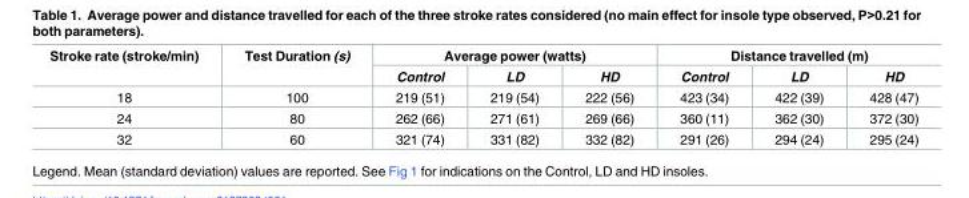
<table><thead><tr><td rowspan="2">Stroke rate (stroke/min)</td><td rowspan="2">Test Duration (s)</td><td colspan="3">Average power (watts)</td><td colspan="3">Distance travelled (m)</td></tr><tr><td>Control</td><td>LD</td><td>HD</td><td>Control</td><td>LD</td><td>HD</td></tr></thead><tbody><tr><td>18</td><td>100</td><td>219 (51)</td><td>219 (54)</td><td>222 (56)</td><td>423 (34)</td><td>422 (39)</td><td>428 (47)</td></tr><tr><td>24</td><td>80</td><td>262 (66)</td><td>271 (61)</td><td>269 (66)</td><td>360 (11)</td><td>362 (30)</td><td>372 (30)</td></tr><tr><td>32</td><td>60</td><td>321 (74)</td><td>331 (82)</td><td>332 (82)</td><td>291 (26)</td><td>294 (24)</td><td>295 (24)</td></tr></tbody></table>